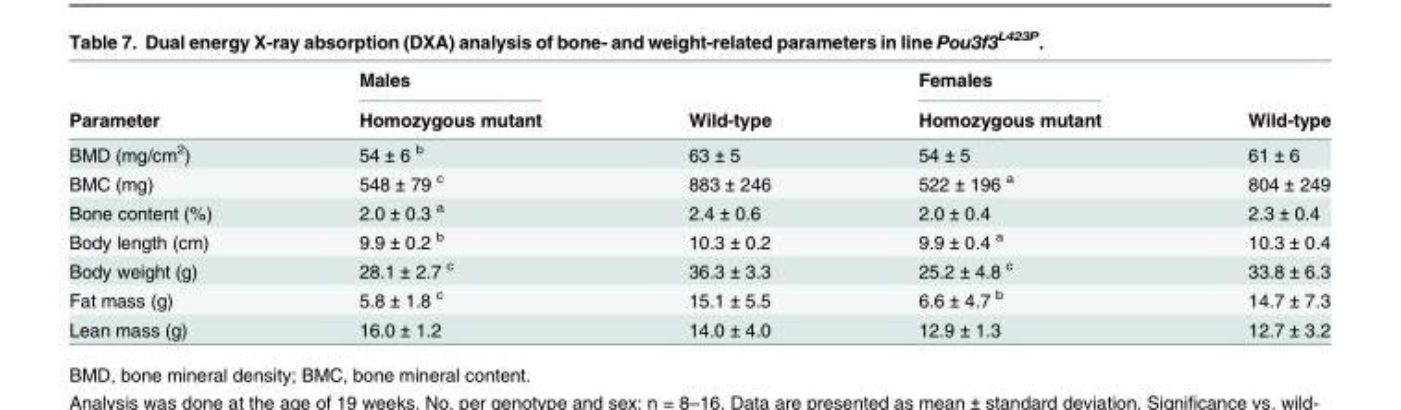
<table><thead><tr><td rowspan="2">Parameter</td><td rowspan="2">Males Homozygous mutant</td><td rowspan="2">Wild-type</td><td rowspan="2">Females Homozygous mutant</td><td rowspan="2">Wild-type</td></tr><tr></tr></thead><tbody><tr><td>BMD (mg/cm<sup>2</sup>)</td><td>54 ± 6 <sup>b</sup></td><td>63 ± 5</td><td>54 ± 5</td><td>61 ± 6</td></tr><tr><td>BMC (mg)</td><td>548 ± 79 <sup>c</sup></td><td>883 ± 246</td><td>522 ± 196 <sup>a</sup></td><td>804 ± 249</td></tr><tr><td>Bone content (%)</td><td>2.0 ± 0.3 <sup>a</sup></td><td>2.4 ± 0.6</td><td>2.0 ± 0.4</td><td>2.3 ± 0.4</td></tr><tr><td>Body length (cm)</td><td>9.9 ± 0.2 <sup>b</sup></td><td>10.3 ± 0.2</td><td>9.9 ± 0.4 <sup>a</sup></td><td>10.3 ± 0.4</td></tr><tr><td>Body weight (g)</td><td>28.1 ± 2.7 <sup>c</sup></td><td>36.3 ± 3.3</td><td>25.2 ± 4.8 <sup>c</sup></td><td>33.8 ± 6.3</td></tr><tr><td>Fat mass (g)</td><td>5.8 ± 1.8 <sup>c</sup></td><td>15.1 ± 5.5</td><td>6.6 ± 4.7 <sup>b</sup></td><td>14.7 ± 7.3</td></tr><tr><td>Lean mass (g)</td><td>16.0 ± 1.2</td><td>14.0 ± 4.0</td><td>12.9 ± 1.3</td><td>12.7 ± 3.2</td></tr></tbody></table>